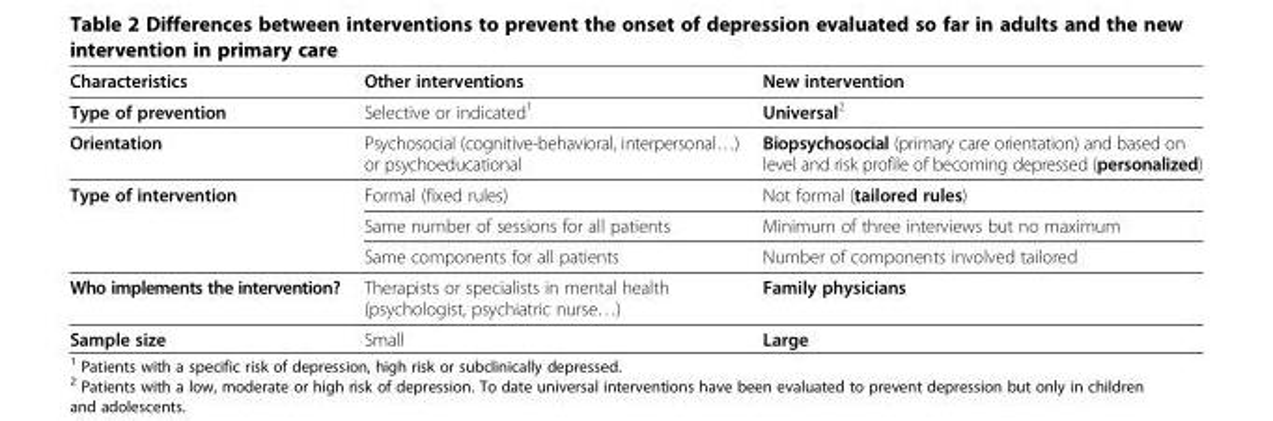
<table><thead><tr><td>Characteristics</td><td>Other interventions</td><td>New intervention</td></tr></thead><tbody><tr><td>Type of prevention</td><td>Selective or indicated<sup>1</sup></td><td>Universal<sup>2</sup></td></tr><tr><td>Orientation</td><td>Psychosocial (cognitive-behavioral, interpersonal…) or psychoeducational</td><td>Biopsychosocial (primary care orientation) and based on level and risk profile of becoming depressed (personalized)</td></tr><tr><td rowspan="3">Type of intervention</td><td>Formal (fixed rules)</td><td>Not formal (tailored rules)</td></tr><tr><td>Same number of sessions for all patients</td><td>Minimum of three interviews but no maximum</td></tr><tr><td>Same components for all patients</td><td>Number of components involved tailored</td></tr><tr><td>Who implements the intervention?</td><td>Therapists or specialists in mental health (psychologist, psychiatric nurse…)</td><td>Family physicians</td></tr><tr><td>Sample size</td><td>Small</td><td>Large</td></tr></tbody></table>